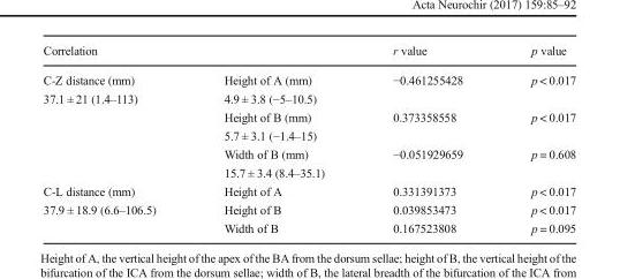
<table><thead><tr><td>Correlation</td><td></td><td>r value</td><td>p value</td></tr></thead><tbody><tr><td>C-Z distance (mm)</td><td>Height of A (mm)</td><td>−0.461255428</td><td>p &lt; 0.017</td></tr><tr><td rowspan="5">37.1 ± 21 (1.4–113)</td><td>4.9 ± 3.8 (−5–10.5)</td><td></td><td></td></tr><tr><td>Height of B (mm)</td><td>0.373358558</td><td>p &lt; 0.017</td></tr><tr><td>5.7 ± 3.1 (−1.4–15)</td><td></td><td></td></tr><tr><td>Width of B (mm)</td><td>−0.051929659</td><td>p = 0.608</td></tr><tr><td>15.7 ± 3.4 (8.4–35.1)</td><td></td><td></td></tr><tr><td>C-L distance (mm)</td><td>Height of A</td><td>0.331391373</td><td>p &lt; 0.017</td></tr><tr><td rowspan="2">37.9 ± 18.9 (6.6–106.5)</td><td>Height of B</td><td>0.039853473</td><td>p &lt; 0.017</td></tr><tr><td>Width of B</td><td>0.167523808</td><td>p = 0.095</td></tr></tbody></table>